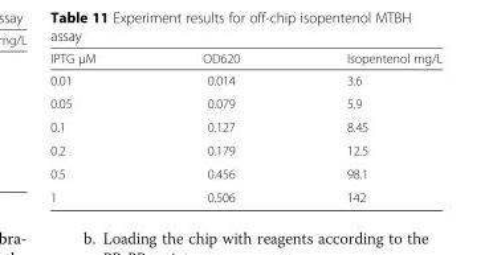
<table><thead><tr><td>IPTG μM</td><td>OD620</td><td>Isopentenol mg/L</td></tr></thead><tbody><tr><td>0.01</td><td>0.014</td><td>3.6</td></tr><tr><td>0.05</td><td>0.079</td><td>5.9</td></tr><tr><td>0.1</td><td>0.127</td><td>8.45</td></tr><tr><td>0.2</td><td>0.179</td><td>12.5</td></tr><tr><td>0.5</td><td>0.456</td><td>98.1</td></tr><tr><td>1</td><td>0.506</td><td>142</td></tr></tbody></table>